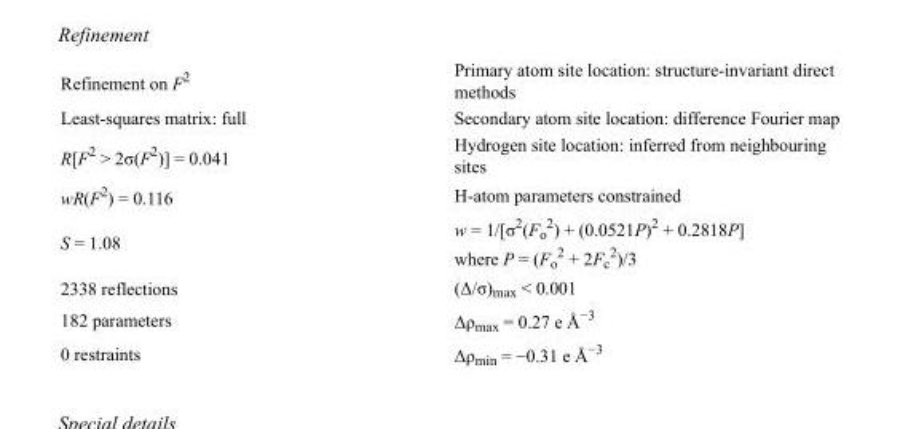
<table><tbody><tr><td>Refinement on F<sup>2</sup></td><td>Primary atom site location: structure-invariant direct methods</td></tr><tr><td>Least-squares matrix: full</td><td>Secondary atom site location: difference Fourier map</td></tr><tr><td>R[F<sup>2</sup> &gt; 2σ(F<sup>2</sup>)] = 0.041</td><td>Hydrogen site location: inferred from neighbouring sites</td></tr><tr><td>wR(F<sup>2</sup>) = 0.116</td><td>H-atom parameters constrained</td></tr><tr><td>S = 1.08</td><td>w = 1/[σ<sup>2</sup>(F<sub>o</sub> <sup>2</sup>) + (0.0521P)<sup>2</sup> + 0.2818P] where P = (F<sub>o</sub> <sup>2</sup> + 2F<sub>c</sub> <sup>2</sup>)/3</td></tr><tr><td>2338 reflections</td><td>(Δ/σ)<sub>max</sub> &lt; 0.001</td></tr><tr><td>182 parameters</td><td>Δρ<sub>max</sub> = 0.27 e Å<sup>−3</sup></td></tr><tr><td>0 restraints</td><td>Δρ<sub>min</sub> = −0.31 e Å<sup>−3</sup></td></tr></tbody></table>